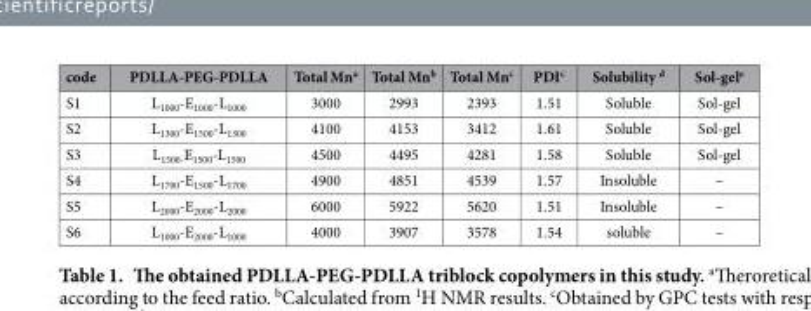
<table><thead><tr><td>code</td><td>PDLLA-PEG-PDLLA</td><td>Total Mn<sup>a</sup></td><td>Total Mn<sup>b</sup></td><td>Total Mn<sup>c</sup></td><td>PDI<sup>c</sup></td><td>Solubility d</td><td>Sol-gel<sup>e</sup></td></tr></thead><tbody><tr><td>S1</td><td>L<sub>1000</sub>-E<sub>1000</sub>-L<sub>1000</sub></td><td>3000</td><td>2993</td><td>2393</td><td>1.51</td><td>Soluble</td><td>Sol-gel</td></tr><tr><td>S2</td><td>L<sub>1300</sub>-E<sub>1500</sub>-L<sub>1300</sub></td><td>4100</td><td>4153</td><td>3412</td><td>1.61</td><td>Soluble</td><td>Sol-gel</td></tr><tr><td>S3</td><td>L<sub>1500-</sub>E<sub>1500</sub>-L<sub>1500</sub></td><td>4500</td><td>4495</td><td>4281</td><td>1.58</td><td>Soluble</td><td>Sol-gel</td></tr><tr><td>S4</td><td>L<sub>1700</sub>-E<sub>1500</sub>-L<sub>1700</sub></td><td>4900</td><td>4851</td><td>4539</td><td>1.57</td><td>Insoluble</td><td>–</td></tr><tr><td>S5</td><td>L<sub>2000</sub>-E<sub>2000</sub>-L<sub>2000</sub></td><td>6000</td><td>5922</td><td>5620</td><td>1.51</td><td>Insoluble</td><td>–</td></tr><tr><td>S6</td><td>L<sub>1000</sub>-E<sub>2000</sub>-L<sub>1000</sub></td><td>4000</td><td>3907</td><td>3578</td><td>1.54</td><td>soluble</td><td>–</td></tr></tbody></table>